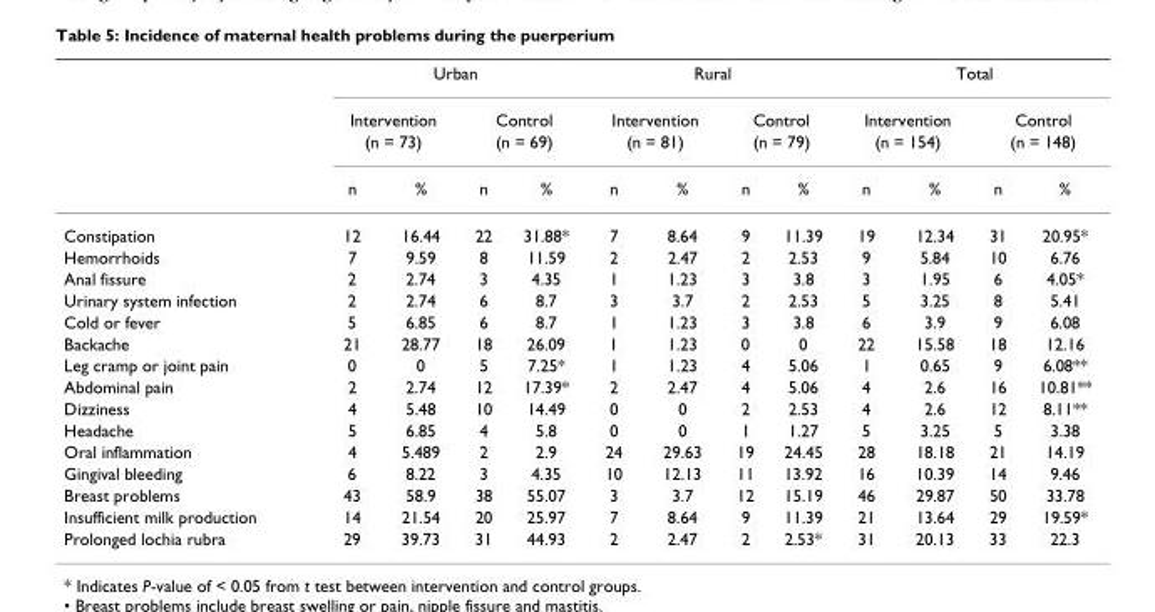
<table><thead><tr><td rowspan="4"></td><td colspan="4">Urban</td><td colspan="4">Rural</td><td colspan="4">Total</td></tr><tr><td rowspan="2" colspan="2">Intervention (n = 73)</td><td rowspan="2" colspan="2">Control (n = 69)</td><td rowspan="2" colspan="2">Intervention (n = 81)</td><td rowspan="2" colspan="2">Control (n = 79)</td><td rowspan="2" colspan="2">Intervention (n = 154)</td><td rowspan="2" colspan="2">Control (n = 148)</td></tr><tr></tr><tr><td>n</td><td>%</td><td>n</td><td>%</td><td>n</td><td>%</td><td>n</td><td>%</td><td>n</td><td>%</td><td>n</td><td>%</td></tr></thead><tbody><tr><td>Constipation</td><td>12</td><td>16.44</td><td>22</td><td>31.88*</td><td>7</td><td>8.64</td><td>9</td><td>11.39</td><td>19</td><td>12.34</td><td>31</td><td>20.95*</td></tr><tr><td>Hemorrhoids</td><td>7</td><td>9.59</td><td>8</td><td>11.59</td><td>2</td><td>2.47</td><td>2</td><td>2.53</td><td>9</td><td>5.84</td><td>10</td><td>6.76</td></tr><tr><td>Anal fissure</td><td>2</td><td>2.74</td><td>3</td><td>4.35</td><td>1</td><td>1.23</td><td>3</td><td>3.8</td><td>3</td><td>1.95</td><td>6</td><td>4.05*</td></tr><tr><td>Urinary system infection</td><td>2</td><td>2.74</td><td>6</td><td>8.7</td><td>3</td><td>3.7</td><td>2</td><td>2.53</td><td>5</td><td>3.25</td><td>8</td><td>5.41</td></tr><tr><td>Cold or fever</td><td>5</td><td>6.85</td><td>6</td><td>8.7</td><td>1</td><td>1.23</td><td>3</td><td>3.8</td><td>6</td><td>3.9</td><td>9</td><td>6.08</td></tr><tr><td>Backache</td><td>21</td><td>28.77</td><td>18</td><td>26.09</td><td>1</td><td>1.23</td><td>0</td><td>0</td><td>22</td><td>15.58</td><td>18</td><td>12.16</td></tr><tr><td>Leg cramp or joint pain</td><td>0</td><td>0</td><td>5</td><td>7.25*</td><td>1</td><td>1.23</td><td>4</td><td>5.06</td><td>1</td><td>0.65</td><td>9</td><td>6.08**</td></tr><tr><td>Abdominal pain</td><td>2</td><td>2.74</td><td>12</td><td>17.39*</td><td>2</td><td>2.47</td><td>4</td><td>5.06</td><td>4</td><td>2.6</td><td>16</td><td>10.81**</td></tr><tr><td>Dizziness</td><td>4</td><td>5.48</td><td>10</td><td>14.49</td><td>0</td><td>0</td><td>2</td><td>2.53</td><td>4</td><td>2.6</td><td>12</td><td>8.11**</td></tr><tr><td>Headache</td><td>5</td><td>6.85</td><td>4</td><td>5.8</td><td>0</td><td>0</td><td>1</td><td>1.27</td><td>5</td><td>3.25</td><td>5</td><td>3.38</td></tr><tr><td>Oral inflammation</td><td>4</td><td>5.489</td><td>2</td><td>2.9</td><td>24</td><td>29.63</td><td>19</td><td>24.45</td><td>28</td><td>18.18</td><td>21</td><td>14.19</td></tr><tr><td>Gingival bleeding</td><td>6</td><td>8.22</td><td>3</td><td>4.35</td><td>10</td><td>12.13</td><td>11</td><td>13.92</td><td>16</td><td>10.39</td><td>14</td><td>9.46</td></tr><tr><td>Breast problems</td><td>43</td><td>58.9</td><td>38</td><td>55.07</td><td>3</td><td>3.7</td><td>12</td><td>15.19</td><td>46</td><td>29.87</td><td>50</td><td>33.78</td></tr><tr><td>Insufficient milk production</td><td>14</td><td>21.54</td><td>20</td><td>25.97</td><td>7</td><td>8.64</td><td>9</td><td>11.39</td><td>21</td><td>13.64</td><td>29</td><td>19.59*</td></tr><tr><td>Prolonged lochia rubra</td><td>29</td><td>39.73</td><td>31</td><td>44.93</td><td>2</td><td>2.47</td><td>2</td><td>2.53*</td><td>31</td><td>20.13</td><td>33</td><td>22.3</td></tr></tbody></table>